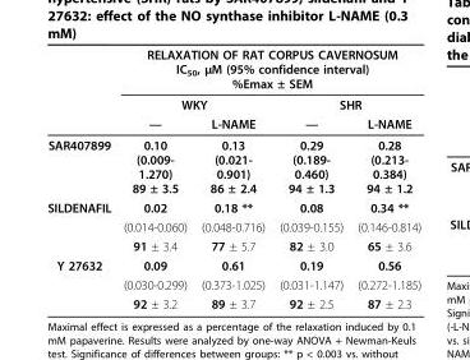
<table><thead><tr><td rowspan="3"></td><td colspan="4">RELAXATION OF RAT CORPUS CAVERNOSUM IC<sub>50</sub>, μM (95% confidence interval) %Emax ± SEM</td></tr><tr><td colspan="2">WKY</td><td colspan="2">SHR</td></tr><tr><td>—</td><td>L-NAME</td><td>—</td><td>L-NAME</td></tr></thead><tbody><tr><td>SAR407899</td><td>0.10 (0.009- 1.270) 89 ± 3.5</td><td>0.13 (0.021- 0.901) 86 ± 2.4</td><td>0.29 (0.189- 0.460) 94 ± 1.3</td><td>0.28 (0.213- 0.384) 94 ± 1.2</td></tr><tr><td rowspan="3">SILDENAFIL</td><td>0.02</td><td>0.18 **</td><td>0.08</td><td>0.34 **</td></tr><tr><td>(0.014-0.060)</td><td>(0.048-0.716)</td><td>(0.039-0.155)</td><td>(0.146-0.814)</td></tr><tr><td>91 ± 3.4</td><td>77 ± 5.7</td><td>82 ± 3.0</td><td>65 ± 3.6</td></tr><tr><td rowspan="3">Y 27632</td><td>0.09</td><td>0.61</td><td>0.19</td><td>0.56</td></tr><tr><td>(0.030-0.299)</td><td>(0.373-1.025)</td><td>(0.031-1.147)</td><td>(0.272-1.185)</td></tr><tr><td>92 ± 3.2</td><td>89 ± 3.7</td><td>92 ± 2.5</td><td>87 ± 2.3</td></tr></tbody></table>